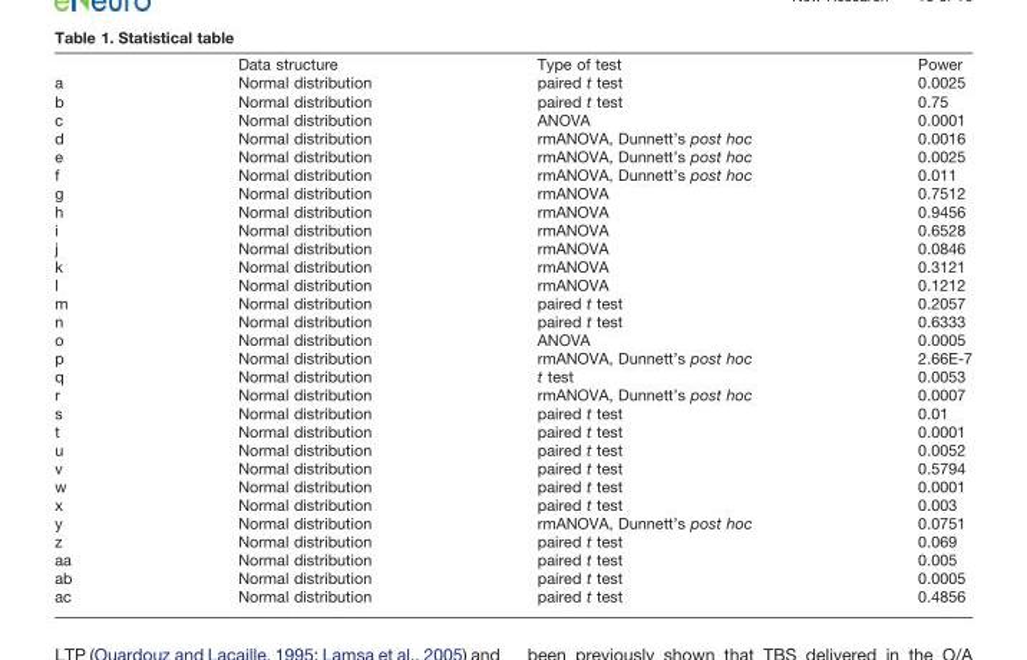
<table><thead><tr><td></td><td>Data structure</td><td>Type of test</td><td>Power</td></tr></thead><tbody><tr><td>a</td><td>Normal distribution</td><td>paired t test</td><td>0.0025</td></tr><tr><td>b</td><td>Normal distribution</td><td>paired t test</td><td>0.75</td></tr><tr><td>c</td><td>Normal distribution</td><td>ANOVA</td><td>0.0001</td></tr><tr><td>d</td><td>Normal distribution</td><td>rmANOVA, Dunnett’s post hoc</td><td>0.0016</td></tr><tr><td>e</td><td>Normal distribution</td><td>rmANOVA, Dunnett’s post hoc</td><td>0.0025</td></tr><tr><td>f</td><td>Normal distribution</td><td>rmANOVA, Dunnett’s post hoc</td><td>0.011</td></tr><tr><td>g</td><td>Normal distribution</td><td>rmANOVA</td><td>0.7512</td></tr><tr><td>h</td><td>Normal distribution</td><td>rmANOVA</td><td>0.9456</td></tr><tr><td>i</td><td>Normal distribution</td><td>rmANOVA</td><td>0.6528</td></tr><tr><td>j</td><td>Normal distribution</td><td>rmANOVA</td><td>0.0846</td></tr><tr><td>k</td><td>Normal distribution</td><td>rmANOVA</td><td>0.3121</td></tr><tr><td>l</td><td>Normal distribution</td><td>rmANOVA</td><td>0.1212</td></tr><tr><td>m</td><td>Normal distribution</td><td>paired t test</td><td>0.2057</td></tr><tr><td>n</td><td>Normal distribution</td><td>paired t test</td><td>0.6333</td></tr><tr><td>o</td><td>Normal distribution</td><td>ANOVA</td><td>0.0005</td></tr><tr><td>p</td><td>Normal distribution</td><td>rmANOVA, Dunnett’s post hoc</td><td>2.66E-7</td></tr><tr><td>q</td><td>Normal distribution</td><td>t test</td><td>0.0053</td></tr><tr><td>r</td><td>Normal distribution</td><td>rmANOVA, Dunnett’s post hoc</td><td>0.0007</td></tr><tr><td>s</td><td>Normal distribution</td><td>paired t test</td><td>0.01</td></tr><tr><td>t</td><td>Normal distribution</td><td>paired t test</td><td>0.0001</td></tr><tr><td>u</td><td>Normal distribution</td><td>paired t test</td><td>0.0052</td></tr><tr><td>v</td><td>Normal distribution</td><td>paired t test</td><td>0.5794</td></tr><tr><td>w</td><td>Normal distribution</td><td>paired t test</td><td>0.0001</td></tr><tr><td>x</td><td>Normal distribution</td><td>paired t test</td><td>0.003</td></tr><tr><td>y</td><td>Normal distribution</td><td>rmANOVA, Dunnett’s post hoc</td><td>0.0751</td></tr><tr><td>z</td><td>Normal distribution</td><td>paired t test</td><td>0.069</td></tr><tr><td>aa</td><td>Normal distribution</td><td>paired t test</td><td>0.005</td></tr><tr><td>ab</td><td>Normal distribution</td><td>paired t test</td><td>0.0005</td></tr><tr><td>ac</td><td>Normal distribution</td><td>paired t test</td><td>0.4856</td></tr></tbody></table>